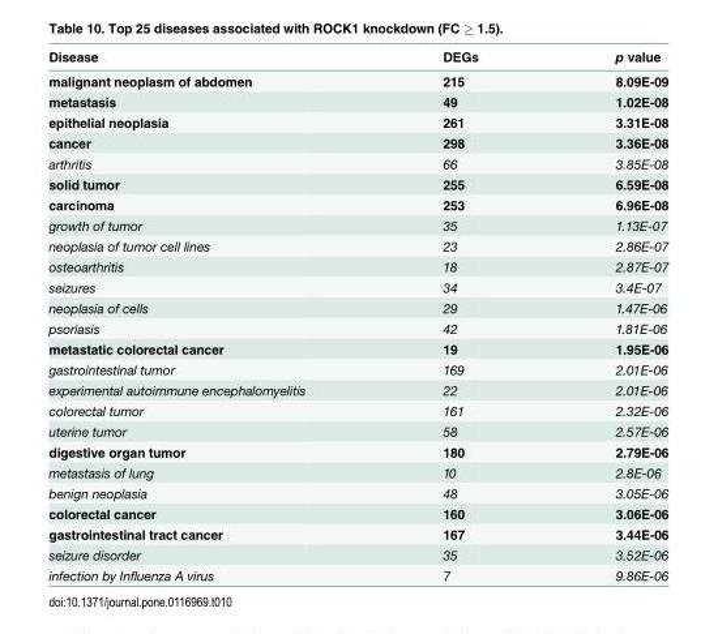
<table><thead><tr><td>Disease</td><td>DEGs</td><td>p value</td></tr></thead><tbody><tr><td>malignant neoplasm of abdomen</td><td>215</td><td>8.09E-09</td></tr><tr><td>metastasis</td><td>49</td><td>1.02E-08</td></tr><tr><td>epithelial neoplasia</td><td>261</td><td>3.31E-08</td></tr><tr><td>cancer</td><td>298</td><td>3.36E-08</td></tr><tr><td>arthritis</td><td>66</td><td>3.85E-08</td></tr><tr><td>solid tumor</td><td>255</td><td>6.59E-08</td></tr><tr><td>carcinoma</td><td>253</td><td>6.96E-08</td></tr><tr><td>growth of tumor</td><td>35</td><td>1.13E-07</td></tr><tr><td>neoplasia of tumor cell lines</td><td>23</td><td>2.86E-07</td></tr><tr><td>osteoarthritis</td><td>18</td><td>2.87E-07</td></tr><tr><td>seizures</td><td>34</td><td>3.4E-07</td></tr><tr><td>neoplasia of cells</td><td>29</td><td>1.47E-06</td></tr><tr><td>psoriasis</td><td>42</td><td>1.81E-06</td></tr><tr><td>metastatic colorectal cancer</td><td>19</td><td>1.95E-06</td></tr><tr><td>gastrointestinal tumor</td><td>169</td><td>2.01E-06</td></tr><tr><td>experimental autoimmune encephalomyelitis</td><td>22</td><td>2.01E-06</td></tr><tr><td>colorectal tumor</td><td>161</td><td>2.32E-06</td></tr><tr><td>uterine tumor</td><td>58</td><td>2.57E-06</td></tr><tr><td>digestive organ tumor</td><td>180</td><td>2.79E-06</td></tr><tr><td>metastasis of lung</td><td>10</td><td>2.8E-06</td></tr><tr><td>benign neoplasia</td><td>48</td><td>3.05E-06</td></tr><tr><td>colorectal cancer</td><td>160</td><td>3.06E-06</td></tr><tr><td>gastrointestinal tract cancer</td><td>167</td><td>3.44E-06</td></tr><tr><td>seizure disorder</td><td>35</td><td>3.52E-06</td></tr><tr><td>infection by Influenza A virus</td><td>7</td><td>9.86E-06</td></tr></tbody></table>